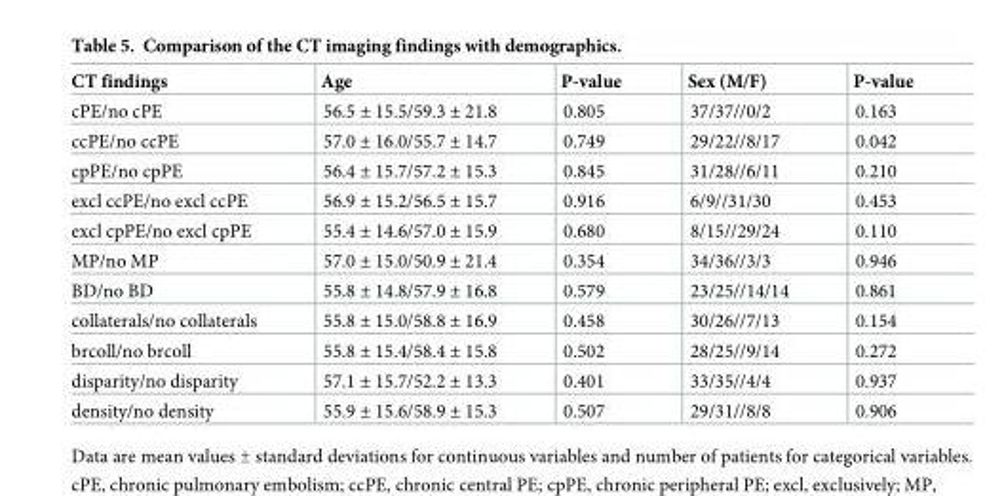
<table><thead><tr><td>CT findings</td><td>Age</td><td>P-value</td><td>Sex (M/F)</td><td>P-value</td></tr></thead><tbody><tr><td>cPE/no cPE</td><td>56.5 ± 15.5/59.3 ± 21.8</td><td>0.805</td><td>37/37//0/2</td><td>0.163</td></tr><tr><td>ccPE/no ccPE</td><td>57.0 ± 16.0/55.7 ± 14.7</td><td>0.749</td><td>29/22//8/17</td><td>0.042</td></tr><tr><td>cpPE/no cpPE</td><td>56.4 ± 15.7/57.2 ± 15.3</td><td>0.845</td><td>31/28//6/11</td><td>0.210</td></tr><tr><td>excl ccPE/no excl ccPE</td><td>56.9 ± 15.2/56.5 ± 15.7</td><td>0.916</td><td>6/9//31/30</td><td>0.453</td></tr><tr><td>excl cpPE/no excl cpPE</td><td>55.4 ± 14.6/57.0 ± 15.9</td><td>0.680</td><td>8/15//29/24</td><td>0.110</td></tr><tr><td>MP/no MP</td><td>57.0 ± 15.0/50.9 ± 21.4</td><td>0.354</td><td>34/36//3/3</td><td>0.946</td></tr><tr><td>BD/no BD</td><td>55.8 ± 14.8/57.9 ± 16.8</td><td>0.579</td><td>23/25//14/14</td><td>0.861</td></tr><tr><td>collaterals/no collaterals</td><td>55.8 ± 15.0/58.8 ± 16.9</td><td>0.458</td><td>30/26//7/13</td><td>0.154</td></tr><tr><td>brcoll/no brcoll</td><td>55.8 ± 15.4/58.4 ± 15.8</td><td>0.502</td><td>28/25//9/14</td><td>0.272</td></tr><tr><td>disparity/no disparity</td><td>57.1 ± 15.7/52.2 ± 13.3</td><td>0.401</td><td>33/35//4/4</td><td>0.937</td></tr><tr><td>density/no density</td><td>55.9 ± 15.6/58.9 ± 15.3</td><td>0.507</td><td>29/31//8/8</td><td>0.906</td></tr></tbody></table>